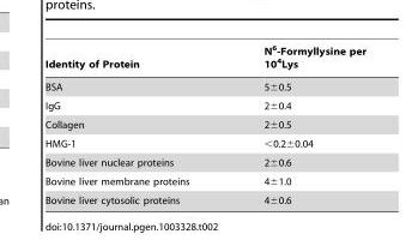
<table><thead><tr><td>Identity of Protein</td><td>N<sup>6</sup>-Formyllysine per 10<sup>4</sup>Lys</td></tr></thead><tbody><tr><td>BSA</td><td>5±0.5</td></tr><tr><td>IgG</td><td>2±0.4</td></tr><tr><td>Collagen</td><td>2±0.5</td></tr><tr><td>HMG-1</td><td>&lt;0.2±0.04</td></tr><tr><td>Bovine liver nuclear proteins</td><td>2±0.6</td></tr><tr><td>Bovine liver membrane proteins</td><td>4±1.0</td></tr><tr><td>Bovine liver cytosolic proteins</td><td>4±0.6</td></tr></tbody></table>